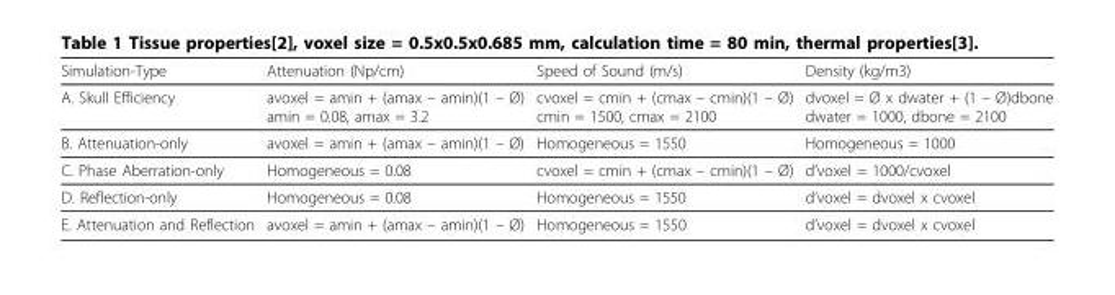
<table><thead><tr><td>Simulation-Type</td><td>Attenuation (Np/cm)</td><td>Speed of Sound (m/s)</td><td>Density (kg/m3)</td></tr></thead><tbody><tr><td>A. Skull Efficiency</td><td>avoxel = amin + (amax – amin)(1 – Ø) amin = 0.08, amax = 3.2</td><td>cvoxel = cmin + (cmax – cmin)(1 – Ø) cmin = 1500, cmax = 2100</td><td>dvoxel = Ø x dwater + (1 – Ø)dbone dwater = 1000, dbone = 2100</td></tr><tr><td>B. Attenuation-only</td><td>avoxel = amin + (amax – amin)(1 – Ø)</td><td>Homogeneous = 1550</td><td>Homogeneous = 1000</td></tr><tr><td>C. Phase Aberration-only</td><td>Homogeneous = 0.08</td><td>cvoxel = cmin + (cmax – cmin)(1 – Ø)</td><td>d’voxel = 1000/cvoxel</td></tr><tr><td>D. Reflection-only</td><td>Homogeneous = 0.08</td><td>Homogeneous = 1550</td><td>d’voxel = dvoxel x cvoxel</td></tr><tr><td>E. Attenuation and Reflection</td><td>avoxel = amin + (amax – amin)(1 – Ø)</td><td>Homogeneous = 1550</td><td>d’voxel = dvoxel x cvoxel</td></tr></tbody></table>